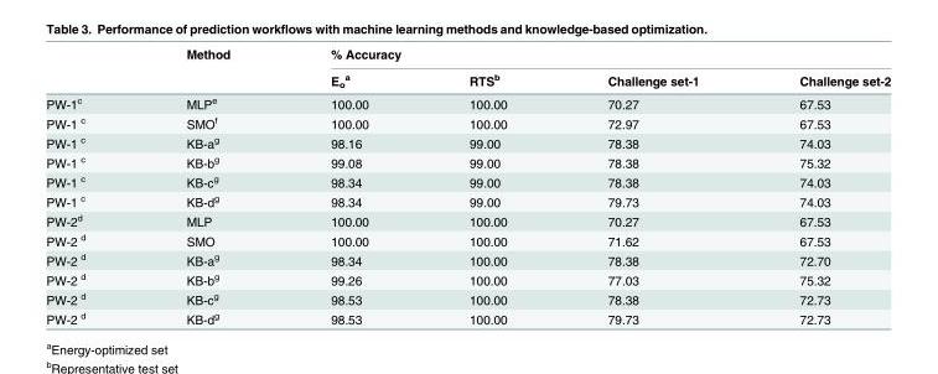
<table><thead><tr><td rowspan="2"></td><td rowspan="2">Method</td><td colspan="4">% Accuracy</td></tr><tr><td>E<sub>o</sub> <sup>a</sup></td><td>RTS<sup>b</sup></td><td>Challenge set-1</td><td>Challenge set-2</td></tr></thead><tbody><tr><td>PW-1<sup>c</sup></td><td>MLP<sup>e</sup></td><td>100.00</td><td>100.00</td><td>70.27</td><td>67.53</td></tr><tr><td>PW-1 <sup>c</sup></td><td>SMO<sup>f</sup></td><td>100.00</td><td>100.00</td><td>72.97</td><td>67.53</td></tr><tr><td>PW-1 <sup>c</sup></td><td>KB-a<sup>g</sup></td><td>98.16</td><td>99.00</td><td>78.38</td><td>74.03</td></tr><tr><td>PW-1 <sup>c</sup></td><td>KB-b<sup>g</sup></td><td>99.08</td><td>99.00</td><td>78.38</td><td>75.32</td></tr><tr><td>PW-1 <sup>c</sup></td><td>KB-c<sup>g</sup></td><td>98.34</td><td>99.00</td><td>78.38</td><td>74.03</td></tr><tr><td>PW-1 <sup>c</sup></td><td>KB-d<sup>g</sup></td><td>98.34</td><td>99.00</td><td>79.73</td><td>74.03</td></tr><tr><td>PW-2<sup>d</sup></td><td>MLP</td><td>100.00</td><td>100.00</td><td>70.27</td><td>67.53</td></tr><tr><td>PW-2 <sup>d</sup></td><td>SMO</td><td>100.00</td><td>100.00</td><td>71.62</td><td>67.53</td></tr><tr><td>PW-2 <sup>d</sup></td><td>KB-a<sup>g</sup></td><td>98.34</td><td>100.00</td><td>78.38</td><td>72.70</td></tr><tr><td>PW-2 <sup>d</sup></td><td>KB-b<sup>g</sup></td><td>99.26</td><td>100.00</td><td>77.03</td><td>75.32</td></tr><tr><td>PW-2 <sup>d</sup></td><td>KB-c<sup>g</sup></td><td>98.53</td><td>100.00</td><td>78.38</td><td>72.73</td></tr><tr><td>PW-2 <sup>d</sup></td><td>KB-d<sup>g</sup></td><td>98.53</td><td>100.00</td><td>79.73</td><td>72.73</td></tr></tbody></table>